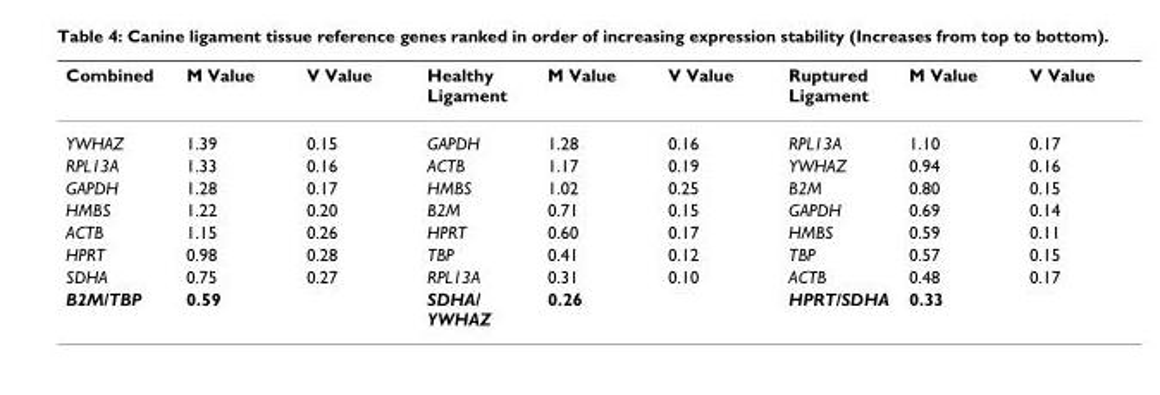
<table><thead><tr><td>Combined</td><td>M Value</td><td>V Value</td><td>Healthy Ligament</td><td>M Value</td><td>V Value</td><td>Ruptured Ligament</td><td>M Value</td><td>V Value</td></tr></thead><tbody><tr><td>YWHAZ</td><td>1.39</td><td>0.15</td><td>GAPDH</td><td>1.28</td><td>0.16</td><td>RPL13A</td><td>1.10</td><td>0.17</td></tr><tr><td>RPL13A</td><td>1.33</td><td>0.16</td><td>ACTB</td><td>1.17</td><td>0.19</td><td>YWHAZ</td><td>0.94</td><td>0.16</td></tr><tr><td>GAPDH</td><td>1.28</td><td>0.17</td><td>HMBS</td><td>1.02</td><td>0.25</td><td>B2M</td><td>0.80</td><td>0.15</td></tr><tr><td>HMBS</td><td>1.22</td><td>0.20</td><td>B2M</td><td>0.71</td><td>0.15</td><td>GAPDH</td><td>0.69</td><td>0.14</td></tr><tr><td>ACTB</td><td>1.15</td><td>0.26</td><td>HPRT</td><td>0.60</td><td>0.17</td><td>HMBS</td><td>0.59</td><td>0.11</td></tr><tr><td>HPRT</td><td>0.98</td><td>0.28</td><td>TBP</td><td>0.41</td><td>0.12</td><td>TBP</td><td>0.57</td><td>0.15</td></tr><tr><td>SDHA</td><td>0.75</td><td>0.27</td><td>RPL13A</td><td>0.31</td><td>0.10</td><td>ACTB</td><td>0.48</td><td>0.17</td></tr><tr><td>B2M/TBP</td><td>0.59</td><td></td><td>SDHA/ YWHAZ</td><td>0.26</td><td></td><td>HPRT/SDHA</td><td>0.33</td><td></td></tr></tbody></table>